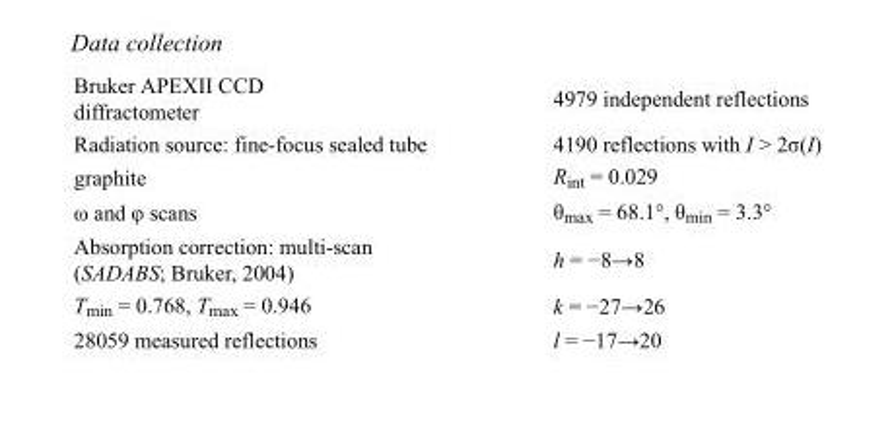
<table><tbody><tr><td>Bruker APEXII CCD diffractometer</td><td>4979 independent reflections</td></tr><tr><td>Radiation source: fine-focus sealed tube</td><td>4190 reflections with I &gt; 2σ(I)</td></tr><tr><td>graphite</td><td>R<sub>int</sub> = 0.029</td></tr><tr><td>ω and φ scans</td><td>θ<sub>max</sub> = 68.1°, θ<sub>min</sub> = 3.3°</td></tr><tr><td>Absorption correction: multi-scan (SADABS; Bruker, 2004)</td><td>h = −8→8</td></tr><tr><td>T<sub>min</sub> = 0.768, T<sub>max</sub> = 0.946</td><td>k = −27→26</td></tr><tr><td>28059 measured reflections</td><td>l = −17→20</td></tr></tbody></table>